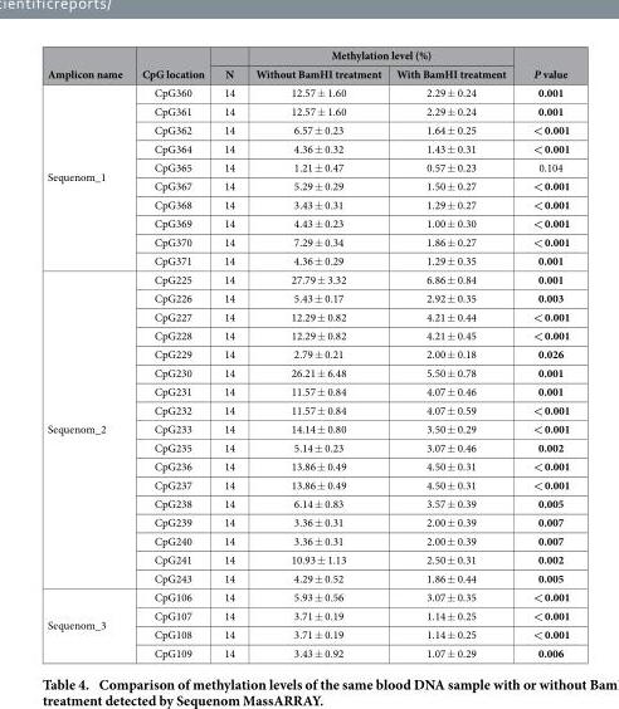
<table><thead><tr><td rowspan="2">Amplicon name</td><td rowspan="2">CpG location</td><td rowspan="2">N</td><td colspan="2">Methylation level (%)</td><td rowspan="2">P value</td></tr><tr><td>Without BamHI treatment</td><td>With BamHI treatment</td></tr></thead><tbody><tr><td rowspan="10">Sequenom_1</td><td>CpG360</td><td>14</td><td>12.57 ± 1.60</td><td>2.29 ± 0.24</td><td>0.001</td></tr><tr><td>CpG361</td><td>14</td><td>12.57 ± 1.60</td><td>2.29 ± 0.24</td><td>0.001</td></tr><tr><td>CpG362</td><td>14</td><td>6.57 ± 0.23</td><td>1.64 ± 0.25</td><td>&lt; 0.001</td></tr><tr><td>CpG364</td><td>14</td><td>4.36 ± 0.32</td><td>1.43 ± 0.31</td><td>&lt; 0.001</td></tr><tr><td>CpG365</td><td>14</td><td>1.21 ± 0.47</td><td>0.57 ± 0.23</td><td>0.104</td></tr><tr><td>CpG367</td><td>14</td><td>5.29 ± 0.29</td><td>1.50 ± 0.27</td><td>&lt; 0.001</td></tr><tr><td>CpG368</td><td>14</td><td>3.43 ± 0.31</td><td>1.29 ± 0.27</td><td>&lt; 0.001</td></tr><tr><td>CpG369</td><td>14</td><td>4.43 ± 0.23</td><td>1.00 ± 0.30</td><td>&lt; 0.001</td></tr><tr><td>CpG370</td><td>14</td><td>7.29 ± 0.34</td><td>1.86 ± 0.27</td><td>&lt; 0.001</td></tr><tr><td>CpG371</td><td>14</td><td>4.36 ± 0.29</td><td>1.29 ± 0.35</td><td>0.001</td></tr><tr><td rowspan="17">Sequenom_2</td><td>CpG225</td><td>14</td><td>27.79 ± 3.32</td><td>6.86 ± 0.84</td><td>0.001</td></tr><tr><td>CpG226</td><td>14</td><td>5.43 ± 0.17</td><td>2.92 ± 0.35</td><td>0.003</td></tr><tr><td>CpG227</td><td>14</td><td>12.29 ± 0.82</td><td>4.21 ± 0.44</td><td>&lt; 0.001</td></tr><tr><td>CpG228</td><td>14</td><td>12.29 ± 0.82</td><td>4.21 ± 0.45</td><td>&lt; 0.001</td></tr><tr><td>CpG229</td><td>14</td><td>2.79 ± 0.21</td><td>2.00 ± 0.18</td><td>0.026</td></tr><tr><td>CpG230</td><td>14</td><td>26.21 ± 6.48</td><td>5.50 ± 0.78</td><td>0.001</td></tr><tr><td>CpG231</td><td>14</td><td>11.57 ± 0.84</td><td>4.07 ± 0.46</td><td>0.001</td></tr><tr><td>CpG232</td><td>14</td><td>11.57 ± 0.84</td><td>4.07 ± 0.59</td><td>&lt; 0.001</td></tr><tr><td>CpG233</td><td>14</td><td>14.14 ± 0.80</td><td>3.50 ± 0.29</td><td>&lt; 0.001</td></tr><tr><td>CpG235</td><td>14</td><td>5.14 ± 0.23</td><td>3.07 ± 0.46</td><td>0.002</td></tr><tr><td>CpG236</td><td>14</td><td>13.86 ± 0.49</td><td>4.50 ± 0.31</td><td>&lt; 0.001</td></tr><tr><td>CpG237</td><td>14</td><td>13.86 ± 0.49</td><td>4.50 ± 0.31</td><td>&lt; 0.001</td></tr><tr><td>CpG238</td><td>14</td><td>6.14 ± 0.83</td><td>3.57 ± 0.39</td><td>0.005</td></tr><tr><td>CpG239</td><td>14</td><td>3.36 ± 0.31</td><td>2.00 ± 0.39</td><td>0.007</td></tr><tr><td>CpG240</td><td>14</td><td>3.36 ± 0.31</td><td>2.00 ± 0.39</td><td>0.007</td></tr><tr><td>CpG241</td><td>14</td><td>10.93 ± 1.13</td><td>2.50 ± 0.31</td><td>0.002</td></tr><tr><td>CpG243</td><td>14</td><td>4.29 ± 0.52</td><td>1.86 ± 0.44</td><td>0.005</td></tr><tr><td rowspan="4">Sequenom_3</td><td>CpG106</td><td>14</td><td>5.93 ± 0.56</td><td>3.07 ± 0.35</td><td>&lt; 0.001</td></tr><tr><td>CpG107</td><td>14</td><td>3.71 ± 0.19</td><td>1.14 ± 0.25</td><td>&lt; 0.001</td></tr><tr><td>CpG108</td><td>14</td><td>3.71 ± 0.19</td><td>1.14 ± 0.25</td><td>&lt; 0.001</td></tr><tr><td>CpG109</td><td>14</td><td>3.43 ± 0.92</td><td>1.07 ± 0.29</td><td>0.006</td></tr></tbody></table>